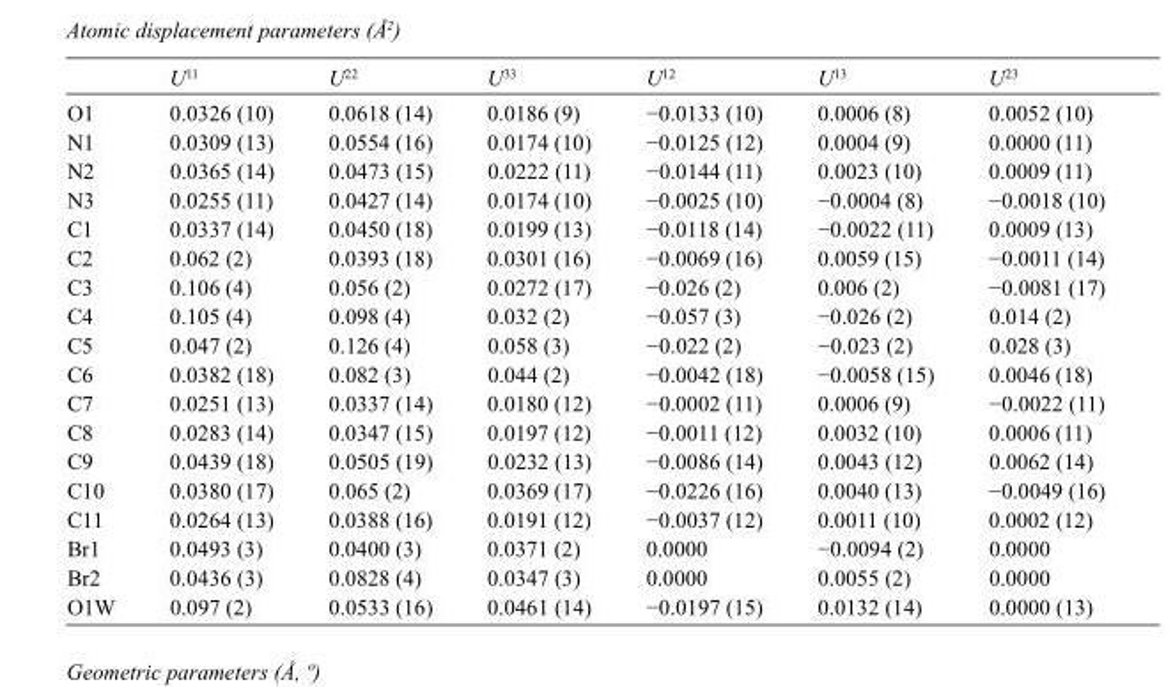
<table><thead><tr><td></td><td>U<sup>11</sup></td><td>U<sup>22</sup></td><td>U<sup>33</sup></td><td>U<sup>12</sup></td><td>U<sup>13</sup></td><td>U<sup>23</sup></td></tr></thead><tbody><tr><td>O1</td><td>0.0326 (10)</td><td>0.0618 (14)</td><td>0.0186 (9)</td><td>−0.0133 (10)</td><td>0.0006 (8)</td><td>0.0052 (10)</td></tr><tr><td>N1</td><td>0.0309 (13)</td><td>0.0554 (16)</td><td>0.0174 (10)</td><td>−0.0125 (12)</td><td>0.0004 (9)</td><td>0.0000 (11)</td></tr><tr><td>N2</td><td>0.0365 (14)</td><td>0.0473 (15)</td><td>0.0222 (11)</td><td>−0.0144 (11)</td><td>0.0023 (10)</td><td>0.0009 (11)</td></tr><tr><td>N3</td><td>0.0255 (11)</td><td>0.0427 (14)</td><td>0.0174 (10)</td><td>−0.0025 (10)</td><td>−0.0004 (8)</td><td>−0.0018 (10)</td></tr><tr><td>C1</td><td>0.0337 (14)</td><td>0.0450 (18)</td><td>0.0199 (13)</td><td>−0.0118 (14)</td><td>−0.0022 (11)</td><td>0.0009 (13)</td></tr><tr><td>C2</td><td>0.062 (2)</td><td>0.0393 (18)</td><td>0.0301 (16)</td><td>−0.0069 (16)</td><td>0.0059 (15)</td><td>−0.0011 (14)</td></tr><tr><td>C3</td><td>0.106 (4)</td><td>0.056 (2)</td><td>0.0272 (17)</td><td>−0.026 (2)</td><td>0.006 (2)</td><td>−0.0081 (17)</td></tr><tr><td>C4</td><td>0.105 (4)</td><td>0.098 (4)</td><td>0.032 (2)</td><td>−0.057 (3)</td><td>−0.026 (2)</td><td>0.014 (2)</td></tr><tr><td>C5</td><td>0.047 (2)</td><td>0.126 (4)</td><td>0.058 (3)</td><td>−0.022 (2)</td><td>−0.023 (2)</td><td>0.028 (3)</td></tr><tr><td>C6</td><td>0.0382 (18)</td><td>0.082 (3)</td><td>0.044 (2)</td><td>−0.0042 (18)</td><td>−0.0058 (15)</td><td>0.0046 (18)</td></tr><tr><td>C7</td><td>0.0251 (13)</td><td>0.0337 (14)</td><td>0.0180 (12)</td><td>−0.0002 (11)</td><td>0.0006 (9)</td><td>−0.0022 (11)</td></tr><tr><td>C8</td><td>0.0283 (14)</td><td>0.0347 (15)</td><td>0.0197 (12)</td><td>−0.0011 (12)</td><td>0.0032 (10)</td><td>0.0006 (11)</td></tr><tr><td>C9</td><td>0.0439 (18)</td><td>0.0505 (19)</td><td>0.0232 (13)</td><td>−0.0086 (14)</td><td>0.0043 (12)</td><td>0.0062 (14)</td></tr><tr><td>C10</td><td>0.0380 (17)</td><td>0.065 (2)</td><td>0.0369 (17)</td><td>−0.0226 (16)</td><td>0.0040 (13)</td><td>−0.0049 (16)</td></tr><tr><td>C11</td><td>0.0264 (13)</td><td>0.0388 (16)</td><td>0.0191 (12)</td><td>−0.0037 (12)</td><td>0.0011 (10)</td><td>0.0002 (12)</td></tr><tr><td>Br1</td><td>0.0493 (3)</td><td>0.0400 (3)</td><td>0.0371 (2)</td><td>0.0000</td><td>−0.0094 (2)</td><td>0.0000</td></tr><tr><td>Br2</td><td>0.0436 (3)</td><td>0.0828 (4)</td><td>0.0347 (3)</td><td>0.0000</td><td>0.0055 (2)</td><td>0.0000</td></tr><tr><td>O1W</td><td>0.097 (2)</td><td>0.0533 (16)</td><td>0.0461 (14)</td><td>−0.0197 (15)</td><td>0.0132 (14)</td><td>0.0000 (13)</td></tr></tbody></table>